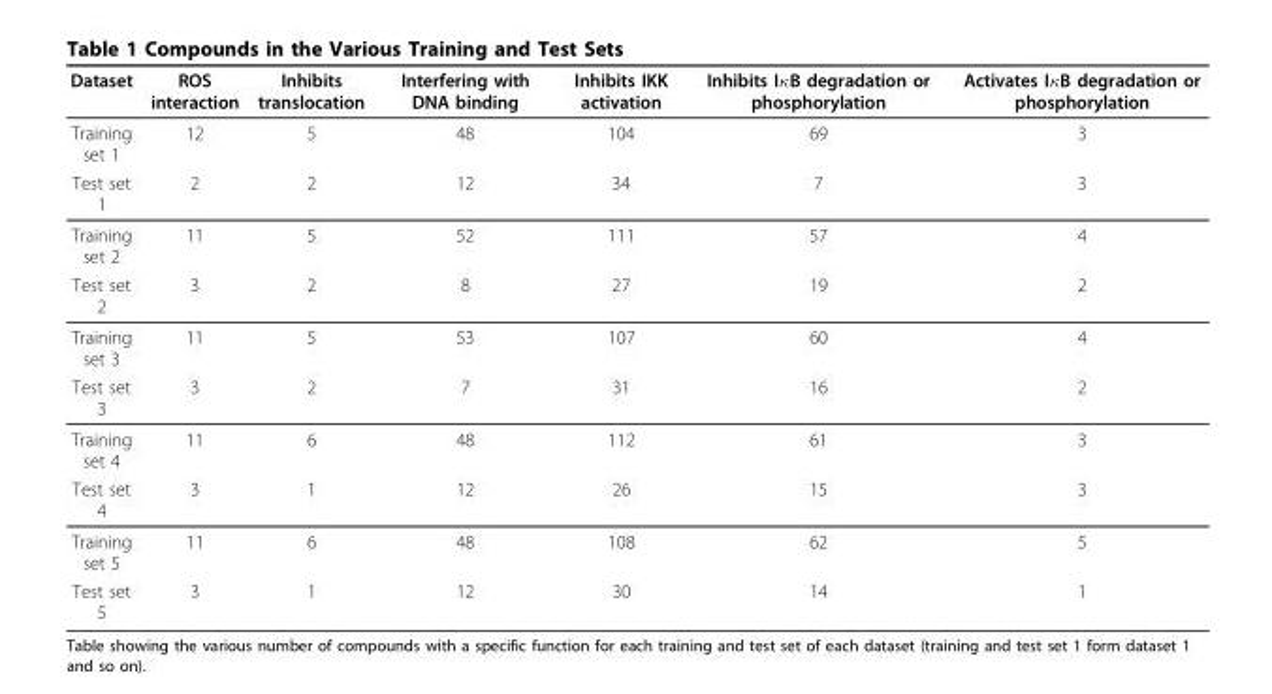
<table><thead><tr><td>Dataset</td><td>ROS interaction</td><td>Inhibits translocation</td><td>Interfering with DNA binding</td><td>Inhibits IKK activation</td><td>Inhibits IκB degradation or phosphorylation</td><td>Activates IκB degradation or phosphorylation</td></tr></thead><tbody><tr><td>Training set 1</td><td>12</td><td>5</td><td>48</td><td>104</td><td>69</td><td>3</td></tr><tr><td>Test set 1</td><td>2</td><td>2</td><td>12</td><td>34</td><td>7</td><td>3</td></tr><tr><td>Training set 2</td><td>11</td><td>5</td><td>52</td><td>111</td><td>57</td><td>4</td></tr><tr><td>Test set 2</td><td>3</td><td>2</td><td>8</td><td>27</td><td>19</td><td>2</td></tr><tr><td>Training set 3</td><td>11</td><td>5</td><td>53</td><td>107</td><td>60</td><td>4</td></tr><tr><td>Test set 3</td><td>3</td><td>2</td><td>7</td><td>31</td><td>16</td><td>2</td></tr><tr><td>Training set 4</td><td>11</td><td>6</td><td>48</td><td>112</td><td>61</td><td>3</td></tr><tr><td>Test set 4</td><td>3</td><td>1</td><td>12</td><td>26</td><td>15</td><td>3</td></tr><tr><td>Training set 5</td><td>11</td><td>6</td><td>48</td><td>108</td><td>62</td><td>5</td></tr><tr><td>Test set 5</td><td>3</td><td>1</td><td>12</td><td>30</td><td>14</td><td>1</td></tr></tbody></table>